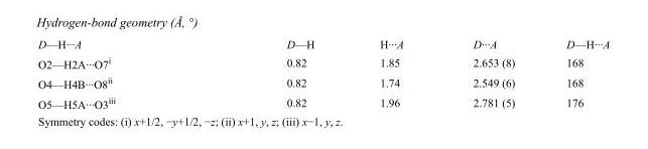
<table><tbody><tr><td>D—H···A</td><td>D—H</td><td>H···A</td><td>D···A</td><td>D—H···A</td></tr><tr><td>O2—H2A···O7<sup>i</sup></td><td>0.82</td><td>1.85</td><td>2.653 (8)</td><td>168</td></tr><tr><td>O4—H4B···O8<sup>ii</sup></td><td>0.82</td><td>1.74</td><td>2.549 (6)</td><td>168</td></tr><tr><td>O5—H5A···O3<sup>iii</sup></td><td>0.82</td><td>1.96</td><td>2.781 (5)</td><td>176</td></tr></tbody></table>